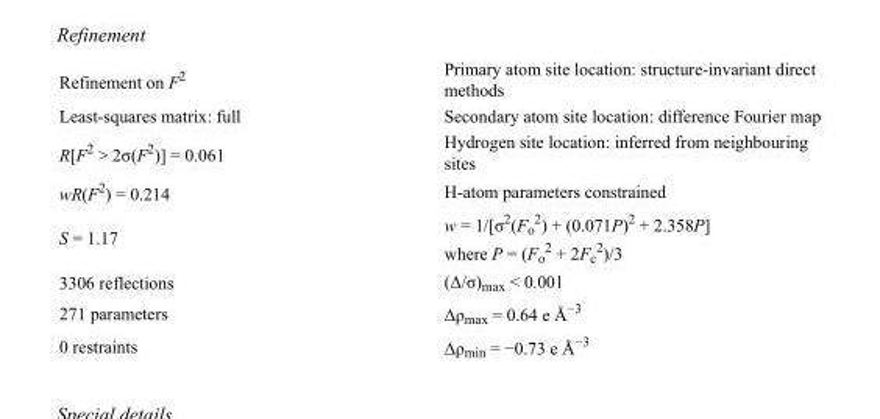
<table><tbody><tr><td>Refinement on F<sup>2</sup></td><td>Primary atom site location: structure-invariant direct methods</td></tr><tr><td>Least-squares matrix: full</td><td>Secondary atom site location: difference Fourier map</td></tr><tr><td>R[F<sup>2</sup> &gt; 2σ(F<sup>2</sup>)] = 0.061</td><td>Hydrogen site location: inferred from neighbouring sites</td></tr><tr><td>wR(F<sup>2</sup>) = 0.214</td><td>H-atom parameters constrained</td></tr><tr><td>S = 1.17</td><td>w = 1/[σ<sup>2</sup>(F<sub>o</sub> <sup>2</sup>) + (0.071P)<sup>2</sup> + 2.358P] where P = (F<sub>o</sub> <sup>2</sup> + 2F<sub>c</sub> <sup>2</sup>)/3</td></tr><tr><td>3306 reflections</td><td>(Δ/σ)<sub>max</sub> &lt; 0.001</td></tr><tr><td>271 parameters</td><td>Δρ<sub>max</sub> = 0.64 e Å<sup>−3</sup></td></tr><tr><td>0 restraints</td><td>Δρ<sub>min</sub> = −0.73 e Å<sup>−3</sup></td></tr></tbody></table>